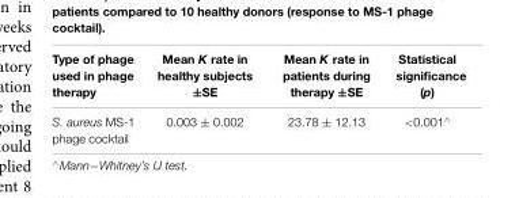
<table><thead><tr><td>Type of phage used in phage therapy</td><td>Mean K rate in healthy subjects ±SE</td><td>Mean K rate in patients during therapy ±SE</td><td>Statistical significance (p)</td></tr></thead><tbody><tr><td>S. aureus MS-1 phage cocktail</td><td>0.003 ± 0.002</td><td>23.78 ± 12.13</td><td>&lt;0.001<sup>∧</sup></td></tr></tbody></table>